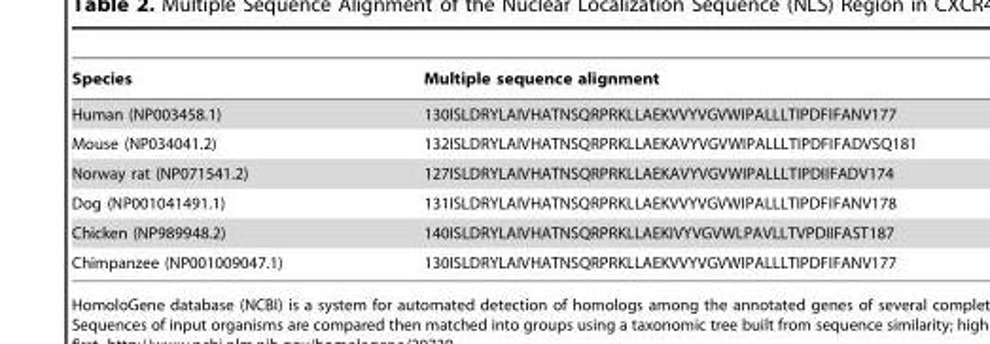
<table><thead><tr><td>Species</td><td>Multiple sequence alignment</td></tr></thead><tbody><tr><td>Human (NP003458.1)</td><td>130ISLDRYLAIVHATNSQRPRKLLAEKVVYVGVWIPALLLTIPDFIFANV177</td></tr><tr><td>Mouse (NP034041.2)</td><td>132ISLDRYLAIVHATNSQRPRKLLAEKAVYVGVWIPALLLTIPDFIFADVSQ181</td></tr><tr><td>Norway rat (NP071541.2)</td><td>127ISLDRYLAIVHATNSQRPRKLLAEKAVYVGVWIPALLLTIPDIIFADV174</td></tr><tr><td>Dog (NP001041491.1)</td><td>131ISLDRYLAIVHATNSQRPRKLLAEKVVYVGVWIPALLLTIPDFIFANV178</td></tr><tr><td>Chicken (NP989948.2)</td><td>140ISLDRYLAIVHATNSQRPRKLLAEKIVYVGVWLPAVLLTVPDIIFAST187</td></tr><tr><td>Chimpanzee (NP001009047.1)</td><td>130ISLDRYLAIVHATNSQRPRKLLAEKVVYVGVWIPALLLTIPDFIFANV177</td></tr></tbody></table>